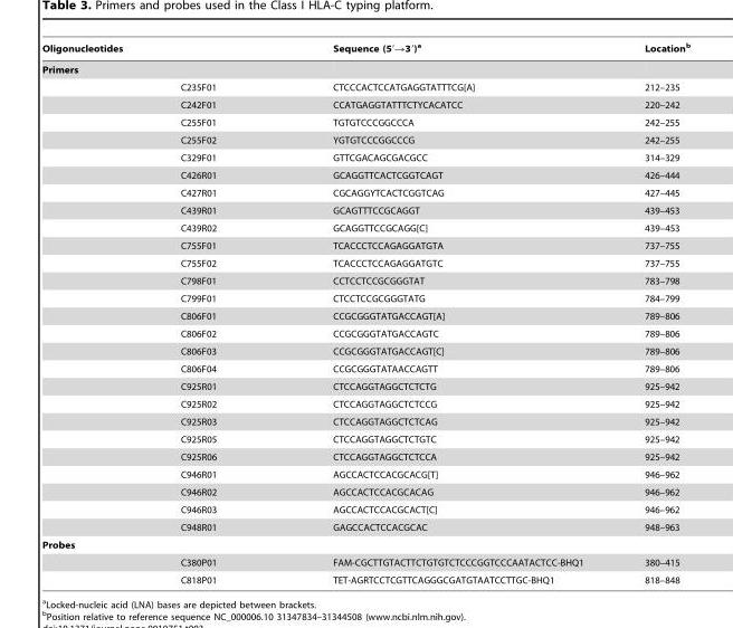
<table><thead><tr><td colspan="2">Oligonucleotides</td><td rowspan="2">Sequence (5′→3′)<sup>a</sup></td><td rowspan="2">Location<sup>b</sup></td></tr><tr><td>Primers</td><td></td></tr></thead><tbody><tr><td></td><td>C235F01</td><td>CTCCCACTCCATGAGGTATTTCG[A]</td><td>212–235</td></tr><tr><td></td><td>C242F01</td><td>CCATGAGGTATTTCTYCACATCC</td><td>220–242</td></tr><tr><td></td><td>C255F01</td><td>TGTGTCCCGGCCCA</td><td>242–255</td></tr><tr><td></td><td>C255F02</td><td>YGTGTCCCGGCCCG</td><td>242–255</td></tr><tr><td></td><td>C329F01</td><td>GTTCGACAGCGACGCC</td><td>314–329</td></tr><tr><td></td><td>C426R01</td><td>GCAGGTTCACTCGGTCAGT</td><td>426–444</td></tr><tr><td></td><td>C427R01</td><td>CGCAGGYTCACTCGGTCAG</td><td>427–445</td></tr><tr><td></td><td>C439R01</td><td>GCAGTTTCCGCAGGT</td><td>439–453</td></tr><tr><td></td><td>C439R02</td><td>GCAGGTTCCGCAGG[C]</td><td>439–453</td></tr><tr><td></td><td>C755F01</td><td>TCACCCTCCAGAGGATGTA</td><td>737–755</td></tr><tr><td></td><td>C755F02</td><td>TCACCCTCCAGAGGATGTC</td><td>737–755</td></tr><tr><td></td><td>C798F01</td><td>CCTCCTCCGCGGGTAT</td><td>783–798</td></tr><tr><td></td><td>C799F01</td><td>CTCCTCCGCGGGTATG</td><td>784–799</td></tr><tr><td></td><td>C806F01</td><td>CCGCGGGTATGACCAGT[A]</td><td>789–806</td></tr><tr><td></td><td>C806F02</td><td>CCGCGGGTATGACCAGTC</td><td>789–806</td></tr><tr><td></td><td>C806F03</td><td>CCGCGGGTATGACCAGT[C]</td><td>789–806</td></tr><tr><td></td><td>C806F04</td><td>CCGCGGGTATAACCAGTT</td><td>789–806</td></tr><tr><td></td><td>C925R01</td><td>CTCCAGGTAGGCTCTCTG</td><td>925–942</td></tr><tr><td></td><td>C925R02</td><td>CTCCAGGTAGGCTCTCCG</td><td>925–942</td></tr><tr><td></td><td>C925R03</td><td>CTCCAGGTAGGCTCTCAG</td><td>925–942</td></tr><tr><td></td><td>C925R05</td><td>CTCCAGGTAGGCTCTGTC</td><td>925–942</td></tr><tr><td></td><td>C925R06</td><td>CTCCAGGTAGGCTCTCCA</td><td>925–942</td></tr><tr><td></td><td>C946R01</td><td>AGCCACTCCACGCACG[T]</td><td>946–962</td></tr><tr><td></td><td>C946R02</td><td>AGCCACTCCACGCACAG</td><td>946–962</td></tr><tr><td></td><td>C946R03</td><td>AGCCACTCCACGCACT[C]</td><td>946–962</td></tr><tr><td></td><td>C948R01</td><td>GAGCCACTCCACGCAC</td><td>948–963</td></tr><tr><td colspan="4">Probes</td></tr><tr><td></td><td>C380P01</td><td>FAM-CGCTTGTACTTCTGTGTCTCCCGGTCCCAATACTCC-BHQ1</td><td>380–415</td></tr><tr><td></td><td>C818P01</td><td>TET-AGRTCCTCGTTCAGGGCGATGTAATCCTTGC-BHQ1</td><td>818–848</td></tr></tbody></table>